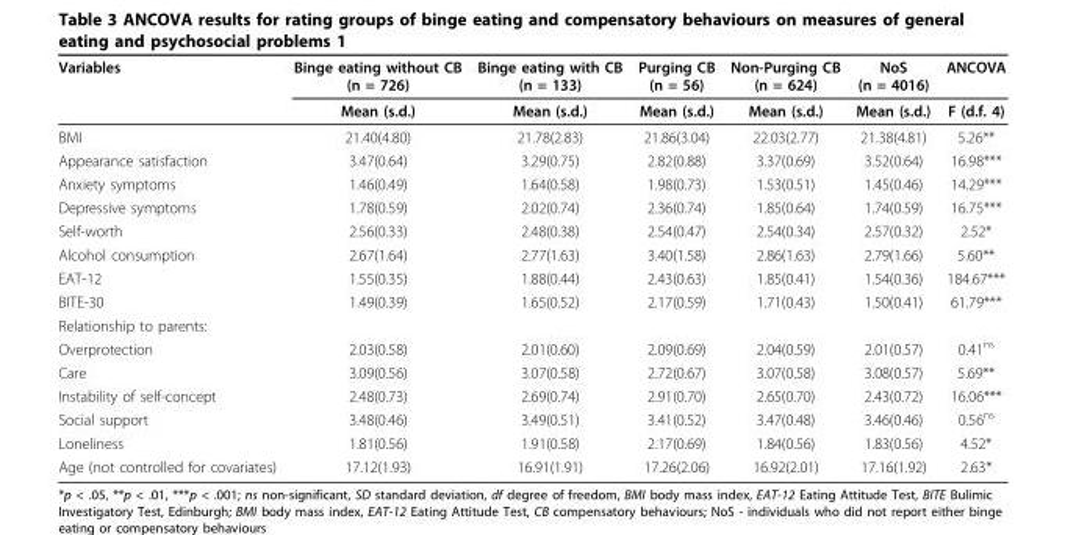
<table><thead><tr><td rowspan="2">Variables</td><td rowspan="2">Binge eating without CB (n = 726) Mean (s.d.)</td><td rowspan="2">Binge eating with CB (n = 133) Mean (s.d.)</td><td rowspan="2">Purging CB (n = 56) Mean (s.d.)</td><td rowspan="2">Non-Purging CB (n = 624) Mean (s.d.)</td><td rowspan="2">NoS (n = 4016) Mean (s.d.)</td><td rowspan="2">ANCOVA F (d.f. 4)</td></tr><tr></tr></thead><tbody><tr><td>BMI</td><td>21.40(4.80)</td><td>21.78(2.83)</td><td>21.86(3.04)</td><td>22.03(2.77)</td><td>21.38(4.81)</td><td>5.26**</td></tr><tr><td>Appearance satisfaction</td><td>3.47(0.64)</td><td>3.29(0.75)</td><td>2.82(0.88)</td><td>3.37(0.69)</td><td>3.52(0.64)</td><td>16.98***</td></tr><tr><td>Anxiety symptoms</td><td>1.46(0.49)</td><td>1.64(0.58)</td><td>1.98(0.73)</td><td>1.53(0.51)</td><td>1.45(0.46)</td><td>14.29***</td></tr><tr><td>Depressive symptoms</td><td>1.78(0.59)</td><td>2.02(0.74)</td><td>2.36(0.74)</td><td>1.85(0.64)</td><td>1.74(0.59)</td><td>16.75***</td></tr><tr><td>Self-worth</td><td>2.56(0.33)</td><td>2.48(0.38)</td><td>2.54(0.47)</td><td>2.54(0.34)</td><td>2.57(0.32)</td><td>2.52*</td></tr><tr><td>Alcohol consumption</td><td>2.67(1.64)</td><td>2.77(1.63)</td><td>3.40(1.58)</td><td>2.86(1.63)</td><td>2.79(1.66)</td><td>5.60**</td></tr><tr><td>EAT-12</td><td>1.55(0.35)</td><td>1.88(0.44)</td><td>2.43(0.63)</td><td>1.85(0.41)</td><td>1.54(0.36)</td><td>184.67***</td></tr><tr><td>BITE-30</td><td>1.49(0.39)</td><td>1.65(0.52)</td><td>2.17(0.59)</td><td>1.71(0.43)</td><td>1.50(0.41)</td><td>61.79***</td></tr><tr><td colspan="7">Relationship to parents:</td></tr><tr><td>Overprotection</td><td>2.03(0.58)</td><td>2.01(0.60)</td><td>2.09(0.69)</td><td>2.04(0.59)</td><td>2.01(0.57)</td><td>0.41<sup>ns</sup></td></tr><tr><td>Care</td><td>3.09(0.56)</td><td>3.07(0.58)</td><td>2.72(0.67)</td><td>3.07(0.58)</td><td>3.08(0.57)</td><td>5.69**</td></tr><tr><td>Instability of self-concept</td><td>2.48(0.73)</td><td>2.69(0.74)</td><td>2.91(0.70)</td><td>2.65(0.70)</td><td>2.43(0.72)</td><td>16.06***</td></tr><tr><td>Social support</td><td>3.48(0.46)</td><td>3.49(0.51)</td><td>3.41(0.52)</td><td>3.47(0.48)</td><td>3.46(0.46)</td><td>0.56<sup>ns</sup></td></tr><tr><td>Loneliness</td><td>1.81(0.56)</td><td>1.91(0.58)</td><td>2.17(0.69)</td><td>1.84(0.56)</td><td>1.83(0.56)</td><td>4.52*</td></tr><tr><td>Age (not controlled for covariates)</td><td>17.12(1.93)</td><td>16.91(1.91)</td><td>17.26(2.06)</td><td>16.92(2.01)</td><td>17.16(1.92)</td><td>2.63*</td></tr></tbody></table>